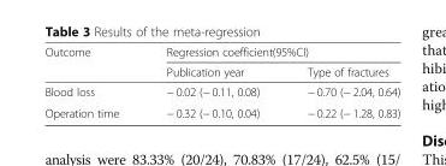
<table><thead><tr><td rowspan="2">Outcome</td><td colspan="2">Regression coefficient(95%CI)</td></tr><tr><td>Publication year</td><td>Type of fractures</td></tr></thead><tbody><tr><td>Blood loss</td><td>− 0.02 (− 0.11, 0.08)</td><td>− 0.70 (− 2.04, 0.64)</td></tr><tr><td>Operation time</td><td>− 0.32 (− 0.10, 0.04)</td><td>− 0.22 (− 1.28, 0.83)</td></tr></tbody></table>